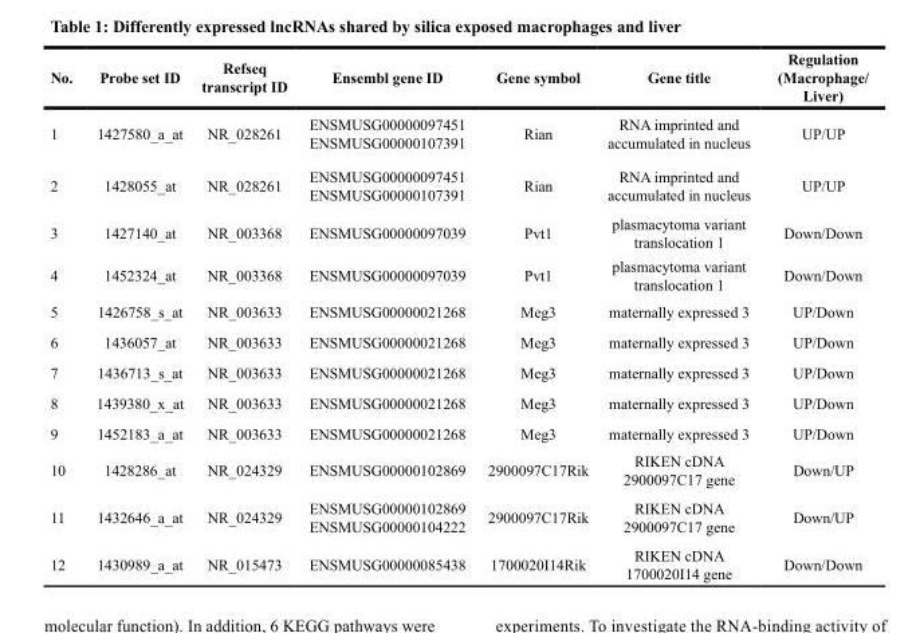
<table><thead><tr><td>No.</td><td>Probe set ID</td><td>Refseq transcript ID</td><td>Ensembl gene ID</td><td>Gene symbol</td><td>Gene title</td><td>Regulation (Macrophage/ Liver)</td></tr></thead><tbody><tr><td>1</td><td>1427580_a_at</td><td>NR_028261</td><td>ENSMUSG00000097451 ENSMUSG00000107391</td><td>Rian</td><td>RNA imprinted and accumulated in nucleus</td><td>UP/UP</td></tr><tr><td>2</td><td>1428055_at</td><td>NR_028261</td><td>ENSMUSG00000097451 ENSMUSG00000107391</td><td>Rian</td><td>RNA imprinted and accumulated in nucleus</td><td>UP/UP</td></tr><tr><td>3</td><td>1427140_at</td><td>NR_003368</td><td>ENSMUSG00000097039</td><td>Pvt1</td><td>plasmacytoma variant translocation 1</td><td>Down/Down</td></tr><tr><td>4</td><td>1452324_at</td><td>NR_003368</td><td>ENSMUSG00000097039</td><td>Pvt1</td><td>plasmacytoma variant translocation 1</td><td>Down/Down</td></tr><tr><td>5</td><td>1426758_s_at</td><td>NR_003633</td><td>ENSMUSG00000021268</td><td>Meg3</td><td>maternally expressed 3</td><td>UP/Down</td></tr><tr><td>6</td><td>1436057_at</td><td>NR_003633</td><td>ENSMUSG00000021268</td><td>Meg3</td><td>maternally expressed 3</td><td>UP/Down</td></tr><tr><td>7</td><td>1436713_s_at</td><td>NR_003633</td><td>ENSMUSG00000021268</td><td>Meg3</td><td>maternally expressed 3</td><td>UP/Down</td></tr><tr><td>8</td><td>1439380_x_at</td><td>NR_003633</td><td>ENSMUSG00000021268</td><td>Meg3</td><td>maternally expressed 3</td><td>UP/Down</td></tr><tr><td>9</td><td>1452183_a_at</td><td>NR_003633</td><td>ENSMUSG00000021268</td><td>Meg3</td><td>maternally expressed 3</td><td>UP/Down</td></tr><tr><td>10</td><td>1428286_at</td><td>NR_024329</td><td>ENSMUSG00000102869</td><td>2900097C17Rik</td><td>RIKEN cDNA 2900097C17 gene</td><td>Down/UP</td></tr><tr><td>11</td><td>1432646_a_at</td><td>NR_024329</td><td>ENSMUSG00000102869 ENSMUSG00000104222</td><td>2900097C17Rik</td><td>RIKEN cDNA 2900097C17 gene</td><td>Down/UP</td></tr><tr><td>12</td><td>1430989_a_at</td><td>NR_015473</td><td>ENSMUSG00000085438</td><td>1700020I14Rik</td><td>RIKEN cDNA 1700020I14 gene</td><td>Down/Down</td></tr></tbody></table>